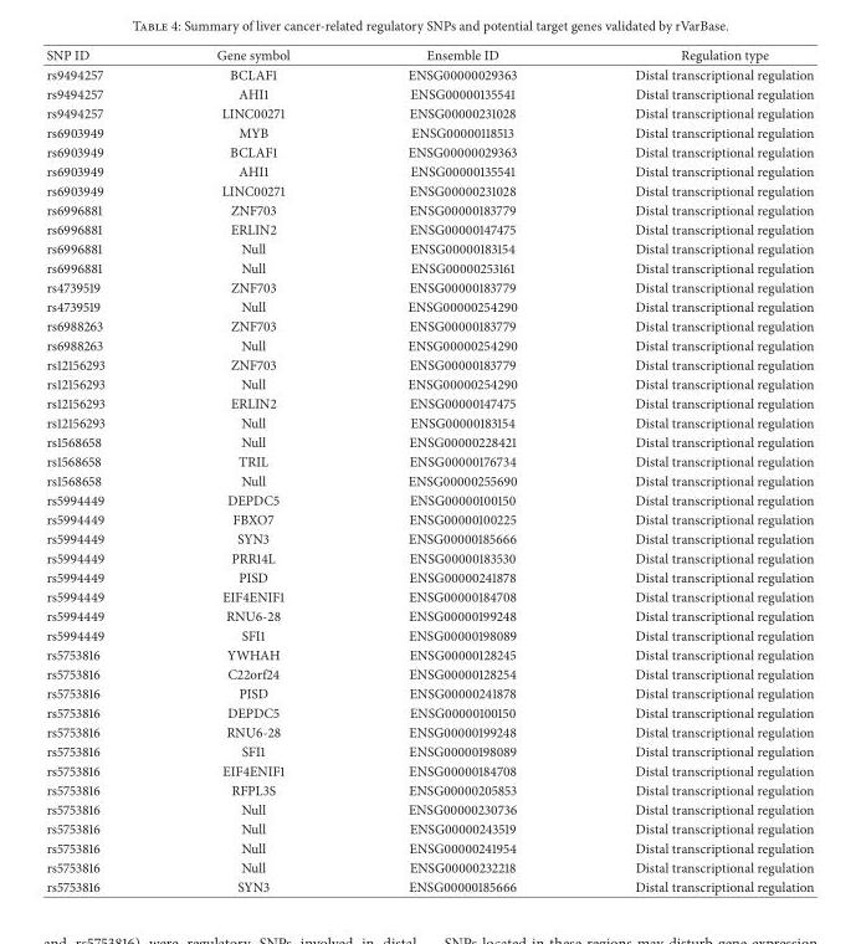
<table><thead><tr><td>SNP ID</td><td>Gene symbol</td><td>Ensemble ID</td><td>Regulation type</td></tr></thead><tbody><tr><td>rs9494257</td><td>BCLAF1</td><td>ENSG00000029363</td><td>Distal transcriptional regulation</td></tr><tr><td>rs9494257</td><td>AHI1</td><td>ENSG00000135541</td><td>Distal transcriptional regulation</td></tr><tr><td>rs9494257</td><td>LINC00271</td><td>ENSG00000231028</td><td>Distal transcriptional regulation</td></tr><tr><td>rs6903949</td><td>MYB</td><td>ENSG00000118513</td><td>Distal transcriptional regulation</td></tr><tr><td>rs6903949</td><td>BCLAF1</td><td>ENSG00000029363</td><td>Distal transcriptional regulation</td></tr><tr><td>rs6903949</td><td>AHI1</td><td>ENSG00000135541</td><td>Distal transcriptional regulation</td></tr><tr><td>rs6903949</td><td>LINC00271</td><td>ENSG00000231028</td><td>Distal transcriptional regulation</td></tr><tr><td>rs6996881</td><td>ZNF703</td><td>ENSG00000183779</td><td>Distal transcriptional regulation</td></tr><tr><td>rs6996881</td><td>ERLIN2</td><td>ENSG00000147475</td><td>Distal transcriptional regulation</td></tr><tr><td>rs6996881</td><td>Null</td><td>ENSG00000183154</td><td>Distal transcriptional regulation</td></tr><tr><td>rs6996881</td><td>Null</td><td>ENSG00000253161</td><td>Distal transcriptional regulation</td></tr><tr><td>rs4739519</td><td>ZNF703</td><td>ENSG00000183779</td><td>Distal transcriptional regulation</td></tr><tr><td>rs4739519</td><td>Null</td><td>ENSG00000254290</td><td>Distal transcriptional regulation</td></tr><tr><td>rs6988263</td><td>ZNF703</td><td>ENSG00000183779</td><td>Distal transcriptional regulation</td></tr><tr><td>rs6988263</td><td>Null</td><td>ENSG00000254290</td><td>Distal transcriptional regulation</td></tr><tr><td>rs12156293</td><td>ZNF703</td><td>ENSG00000183779</td><td>Distal transcriptional regulation</td></tr><tr><td>rs12156293</td><td>Null</td><td>ENSG00000254290</td><td>Distal transcriptional regulation</td></tr><tr><td>rs12156293</td><td>ERLIN2</td><td>ENSG00000147475</td><td>Distal transcriptional regulation</td></tr><tr><td>rs12156293</td><td>Null</td><td>ENSG00000183154</td><td>Distal transcriptional regulation</td></tr><tr><td>rs1568658</td><td>Null</td><td>ENSG00000228421</td><td>Distal transcriptional regulation</td></tr><tr><td>rs1568658</td><td>TRIL</td><td>ENSG00000176734</td><td>Distal transcriptional regulation</td></tr><tr><td>rs1568658</td><td>Null</td><td>ENSG00000255690</td><td>Distal transcriptional regulation</td></tr><tr><td>rs5994449</td><td>DEPDC5</td><td>ENSG00000100150</td><td>Distal transcriptional regulation</td></tr><tr><td>rs5994449</td><td>FBXO7</td><td>ENSG00000100225</td><td>Distal transcriptional regulation</td></tr><tr><td>rs5994449</td><td>SYN3</td><td>ENSG00000185666</td><td>Distal transcriptional regulation</td></tr><tr><td>rs5994449</td><td>PRR14L</td><td>ENSG00000183530</td><td>Distal transcriptional regulation</td></tr><tr><td>rs5994449</td><td>PISD</td><td>ENSG00000241878</td><td>Distal transcriptional regulation</td></tr><tr><td>rs5994449</td><td>EIF4ENIF1</td><td>ENSG00000184708</td><td>Distal transcriptional regulation</td></tr><tr><td>rs5994449</td><td>RNU6-28</td><td>ENSG00000199248</td><td>Distal transcriptional regulation</td></tr><tr><td>rs5994449</td><td>SFI1</td><td>ENSG00000198089</td><td>Distal transcriptional regulation</td></tr><tr><td>rs5753816</td><td>YWHAH</td><td>ENSG00000128245</td><td>Distal transcriptional regulation</td></tr><tr><td>rs5753816</td><td>C22orf24</td><td>ENSG00000128254</td><td>Distal transcriptional regulation</td></tr><tr><td>rs5753816</td><td>PISD</td><td>ENSG00000241878</td><td>Distal transcriptional regulation</td></tr><tr><td>rs5753816</td><td>DEPDC5</td><td>ENSG00000100150</td><td>Distal transcriptional regulation</td></tr><tr><td>rs5753816</td><td>RNU6-28</td><td>ENSG00000199248</td><td>Distal transcriptional regulation</td></tr><tr><td>rs5753816</td><td>SFI1</td><td>ENSG00000198089</td><td>Distal transcriptional regulation</td></tr><tr><td>rs5753816</td><td>EIF4ENIF1</td><td>ENSG00000184708</td><td>Distal transcriptional regulation</td></tr><tr><td>rs5753816</td><td>RFPL3S</td><td>ENSG00000205853</td><td>Distal transcriptional regulation</td></tr><tr><td>rs5753816</td><td>Null</td><td>ENSG00000230736</td><td>Distal transcriptional regulation</td></tr><tr><td>rs5753816</td><td>Null</td><td>ENSG00000243519</td><td>Distal transcriptional regulation</td></tr><tr><td>rs5753816</td><td>Null</td><td>ENSG00000241954</td><td>Distal transcriptional regulation</td></tr><tr><td>rs5753816</td><td>Null</td><td>ENSG00000232218</td><td>Distal transcriptional regulation</td></tr><tr><td>rs5753816</td><td>SYN3</td><td>ENSG00000185666</td><td>Distal transcriptional regulation</td></tr></tbody></table>